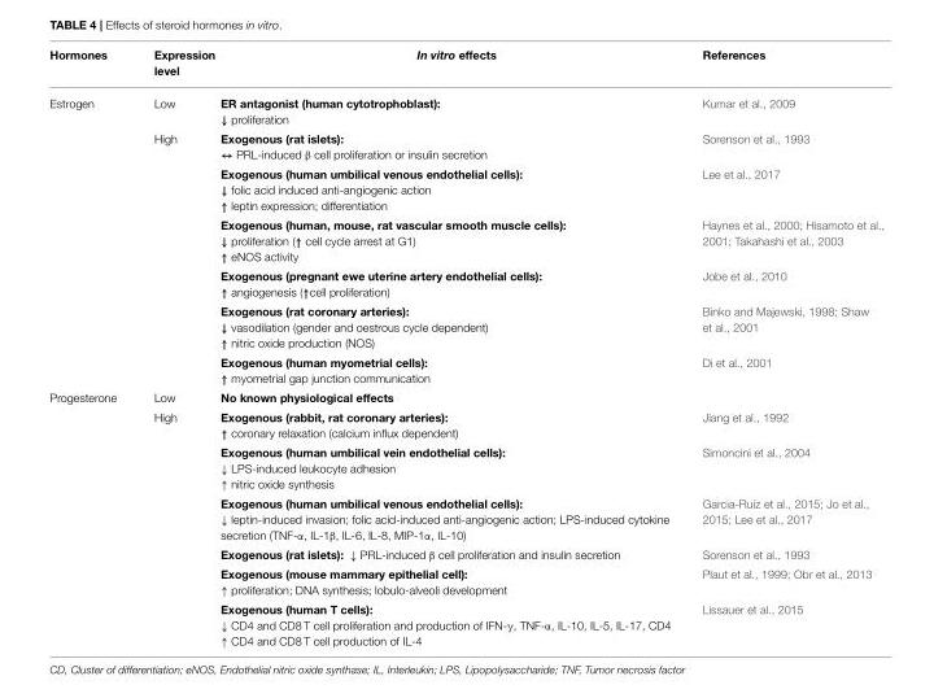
<table><thead><tr><td>Hormones</td><td>Expression level</td><td>In vitro effects</td><td>References</td></tr></thead><tbody><tr><td rowspan="7">Estrogen</td><td>Low</td><td>ER antagonist (human cytotrophoblast): ↓ proliferation</td><td>Kumar et al., 2009</td></tr><tr><td>High</td><td>Exogenous (rat islets): ↔ PRL-induced β cell proliferation or insulin secretion</td><td>Sorenson et al., 1993</td></tr><tr><td></td><td>Exogenous (human umbilical venous endothelial cells): ↓ folic acid induced anti-angiogenic action ↑ leptin expression; differentiation</td><td>Lee et al., 2017</td></tr><tr><td></td><td>Exogenous (human, mouse, rat vascular smooth muscle cells): ↓ proliferation (↑ cell cycle arrest at G1) ↑ eNOS activity</td><td>Haynes et al., 2000; Hisamoto et al., 2001; Takahashi et al., 2003</td></tr><tr><td></td><td>Exogenous (pregnant ewe uterine artery endothelial cells): ↑ angiogenesis (↑cell proliferation)</td><td>Jobe et al., 2010</td></tr><tr><td></td><td>Exogenous (rat coronary arteries): ↓ vasodilation (gender and oestrous cycle dependent) ↑ nitric oxide production (NOS)</td><td>Binko and Majewski, 1998; Shaw et al., 2001</td></tr><tr><td></td><td>Exogenous (human myometrial cells): ↑ myometrial gap junction communication</td><td>Di et al., 2001</td></tr><tr><td rowspan="7">Progesterone</td><td>Low</td><td>No known physiological effects</td><td></td></tr><tr><td>High</td><td>Exogenous (rabbit, rat coronary arteries): ↑ coronary relaxation (calcium influx dependent)</td><td>Jiang et al., 1992</td></tr><tr><td></td><td>Exogenous (human umbilical vein endothelial cells): ↓ LPS-induced leukocyte adhesion ↑ nitric oxide synthesis</td><td>Simoncini et al., 2004</td></tr><tr><td></td><td>Exogenous (human umbilical venous endothelial cells): ↓ leptin-induced invasion; folic acid-induced anti-angiogenic action; LPS-induced cytokine secretion (TNF-α, IL-1β, IL-6, IL-8, MIP-1α, IL-10)</td><td>Garcia-Ruíz et al., 2015; Jo et al., 2015; Lee et al., 2017</td></tr><tr><td></td><td>Exogenous (rat islets): ↓ PRL-induced β cell proliferation and insulin secretion</td><td>Sorenson et al., 1993</td></tr><tr><td></td><td>Exogenous (mouse mammary epithelial cell): ↑ proliferation; DNA synthesis; lobulo-alveoli development</td><td>Plaut et al., 1999; Obr et al., 2013</td></tr><tr><td></td><td>Exogenous (human T cells): ↓ CD4 and CD8 T cell proliferation and production of IFN-γ, TNF-α, IL-10, IL-5, IL-17, CD4 ↑ CD4 and CD8 T cell production of IL-4</td><td>Lissauer et al., 2015</td></tr></tbody></table>